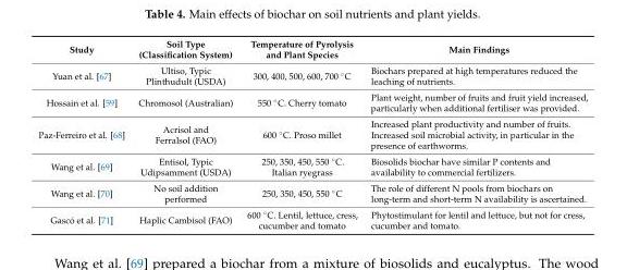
<table><thead><tr><td>Study</td><td>Soil Type (Classification System)</td><td>Temperature of Pyrolysis and Plant Species</td><td>Main Findings</td></tr></thead><tbody><tr><td>Yuan et al. [67]</td><td>Ultiso, Typic Plinthudult (USDA)</td><td>300, 400, 500, 600, 700 ◦C</td><td>Biochars prepared at high temperatures reduced the leaching of nutrients.</td></tr><tr><td>Hossain et al. [59]</td><td>Chromosol (Australian)</td><td>550 ◦C. Cherry tomato</td><td>Plant weight, number of fruits and fruit yield increased, particularly when additional fertiliser was provided.</td></tr><tr><td>Paz-Ferreiro et al. [68]</td><td>Acrisol and Ferralsol (FAO)</td><td>600 ◦C. Proso millet</td><td>Increased plant productivity and number of fruits. Increased soil microbial activity, in particular in the presence of earthworms.</td></tr><tr><td>Wang et al. [69]</td><td>Entisol, Typic Udipsamment (USDA)</td><td>250, 350, 450, 550 ◦C. Italian ryegrass</td><td>Biosolids biochar have similar P contents and availability to commercial fertilizers.</td></tr><tr><td>Wang et al. [70]</td><td>No soil addition performed</td><td>250, 350, 450, 550 ◦C</td><td>The role of different N pools from biochars on long-term and short-term N availability is ascertained.</td></tr><tr><td>Gascó et al. [71]</td><td>Haplic Cambisol (FAO)</td><td>600 ◦C. Lentil, lettuce, cress, cucumber and tomato</td><td>Phytostimulant for lentil and lettuce, but not for cress, cucumber and tomato.</td></tr></tbody></table>